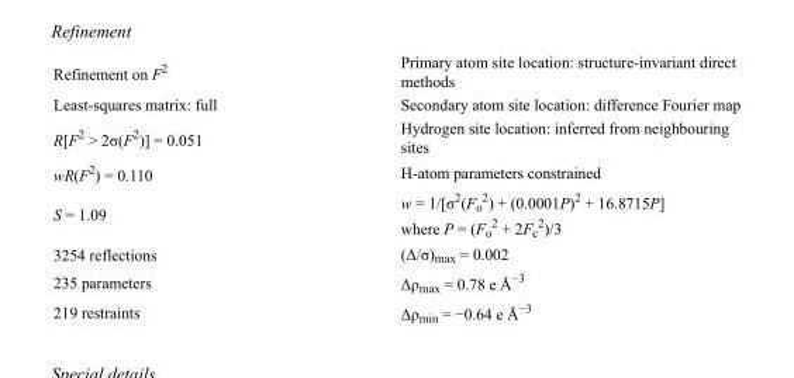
<table><tbody><tr><td>Refinement on F<sup>2</sup></td><td>Primary atom site location: structure-invariant direct methods</td></tr><tr><td>Least-squares matrix: full</td><td>Secondary atom site location: difference Fourier map</td></tr><tr><td>R[F<sup>2</sup> &gt; 2σ(F<sup>2</sup>)] = 0.051</td><td>Hydrogen site location: inferred from neighbouring sites</td></tr><tr><td>wR(F<sup>2</sup>) = 0.110</td><td>H-atom parameters constrained</td></tr><tr><td>S = 1.09</td><td>w = 1/[σ<sup>2</sup>(F<sub>o</sub> <sup>2</sup>) + (0.0001P)<sup>2</sup> + 16.8715P] where P = (F<sub>o</sub> <sup>2</sup> + 2F<sub>c</sub> <sup>2</sup>)/3</td></tr><tr><td>3254 reflections</td><td>(Δ/σ)<sub>max</sub> = 0.002</td></tr><tr><td>235 parameters</td><td>Δρ<sub>max</sub> = 0.78 e Å<sup>−3</sup></td></tr><tr><td>219 restraints</td><td>Δρ<sub>min</sub> = −0.64 e Å<sup>−3</sup></td></tr></tbody></table>